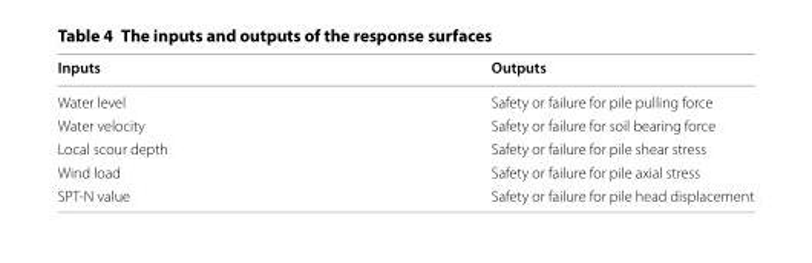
<table><thead><tr><td>Inputs</td><td>Outputs</td></tr></thead><tbody><tr><td>Water level</td><td>Safety or failure for pile pulling force</td></tr><tr><td>Water velocity</td><td>Safety or failure for soil bearing force</td></tr><tr><td>Local scour depth</td><td>Safety or failure for pile shear stress</td></tr><tr><td>Wind load</td><td>Safety or failure for pile axial stress</td></tr><tr><td>SPT‑N value</td><td>Safety or failure for pile head displacement</td></tr></tbody></table>